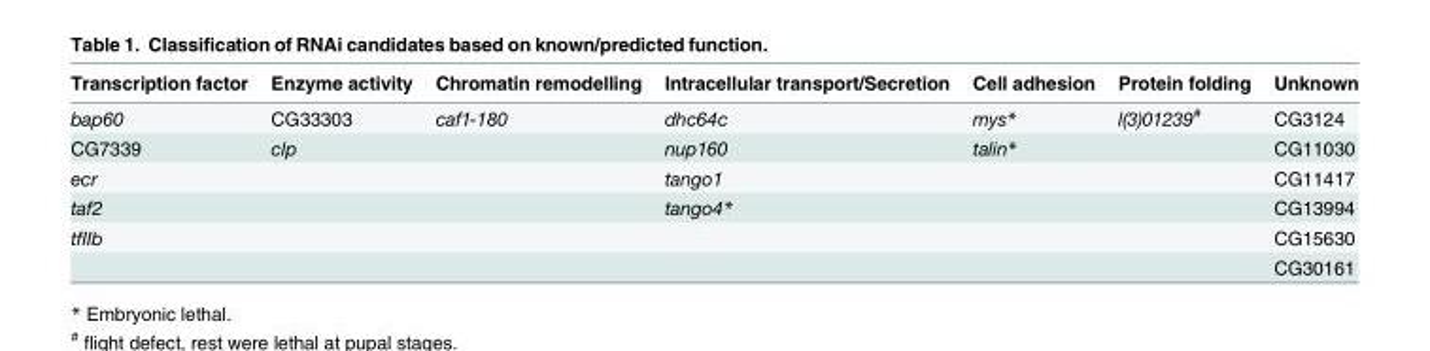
<table><thead><tr><td>Transcription factor</td><td>Enzyme activity</td><td>Chromatin remodelling</td><td>Intracellular transport/Secretion</td><td>Cell adhesion</td><td>Protein folding</td><td>Unknown</td></tr></thead><tbody><tr><td>bap60</td><td>CG33303</td><td>caf1-180</td><td>dhc64c</td><td>mys*</td><td>l(3)01239<sup>#</sup></td><td>CG3124</td></tr><tr><td>CG7339</td><td>clp</td><td></td><td>nup160</td><td>talin*</td><td></td><td>CG11030</td></tr><tr><td>ecr</td><td></td><td></td><td>tango1</td><td></td><td></td><td>CG11417</td></tr><tr><td>taf2</td><td></td><td></td><td>tango4*</td><td></td><td></td><td>CG13994</td></tr><tr><td rowspan="2">tfIIb</td><td></td><td></td><td></td><td></td><td></td><td>CG15630</td></tr><tr><td></td><td></td><td></td><td></td><td></td><td>CG30161</td></tr></tbody></table>